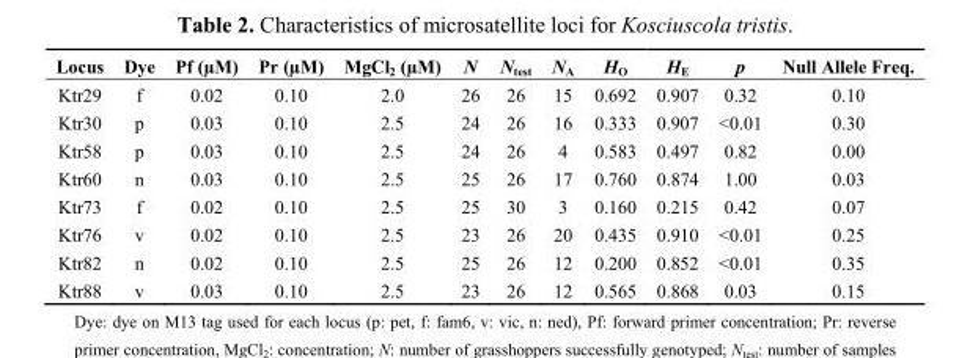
<table><thead><tr><td>Locus</td><td>Dye</td><td>Pf (µM)</td><td>Pr (µM)</td><td>MgCl<sub>2</sub> (µM)</td><td>N</td><td>N<sub>test</sub></td><td>N<sub>A</sub></td><td>H<sub>O</sub></td><td>H<sub>E</sub></td><td>p</td><td>Null Allele Freq.</td></tr></thead><tbody><tr><td>Ktr29</td><td>f</td><td>0.02</td><td>0.10</td><td>2.0</td><td>26</td><td>26</td><td>15</td><td>0.692</td><td>0.907</td><td>0.32</td><td>0.10</td></tr><tr><td>Ktr30</td><td>p</td><td>0.03</td><td>0.10</td><td>2.5</td><td>24</td><td>26</td><td>16</td><td>0.333</td><td>0.907</td><td>&lt;0.01</td><td>0.30</td></tr><tr><td>Ktr58</td><td>p</td><td>0.03</td><td>0.10</td><td>2.5</td><td>24</td><td>26</td><td>4</td><td>0.583</td><td>0.497</td><td>0.82</td><td>0.00</td></tr><tr><td>Ktr60</td><td>n</td><td>0.03</td><td>0.10</td><td>2.5</td><td>25</td><td>26</td><td>17</td><td>0.760</td><td>0.874</td><td>1.00</td><td>0.03</td></tr><tr><td>Ktr73</td><td>f</td><td>0.02</td><td>0.10</td><td>2.5</td><td>25</td><td>30</td><td>3</td><td>0.160</td><td>0.215</td><td>0.42</td><td>0.07</td></tr><tr><td>Ktr76</td><td>v</td><td>0.02</td><td>0.10</td><td>2.5</td><td>23</td><td>26</td><td>20</td><td>0.435</td><td>0.910</td><td>&lt;0.01</td><td>0.25</td></tr><tr><td>Ktr82</td><td>n</td><td>0.02</td><td>0.10</td><td>2.5</td><td>25</td><td>26</td><td>12</td><td>0.200</td><td>0.852</td><td>&lt;0.01</td><td>0.35</td></tr><tr><td>Ktr88</td><td>v</td><td>0.03</td><td>0.10</td><td>2.5</td><td>23</td><td>26</td><td>12</td><td>0.565</td><td>0.868</td><td>0.03</td><td>0.15</td></tr></tbody></table>